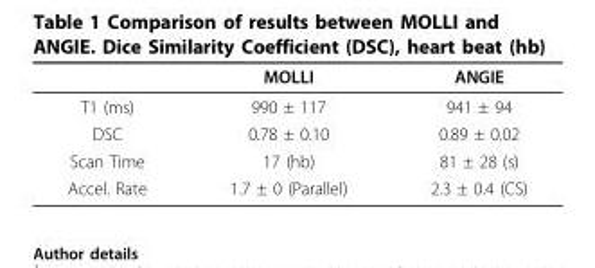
<table><thead><tr><td></td><td>MOLLI</td><td>ANGIE</td></tr></thead><tbody><tr><td>T1 (ms)</td><td>990 ± 117</td><td>941 ± 94</td></tr><tr><td>DSC</td><td>0.78 ± 0.10</td><td>0.89 ± 0.02</td></tr><tr><td>Scan Time</td><td>17 (hb)</td><td>81 ± 28 (s)</td></tr><tr><td>Accel. Rate</td><td>1.7 ± 0 (Parallel)</td><td>2.3 ± 0.4 (CS)</td></tr></tbody></table>